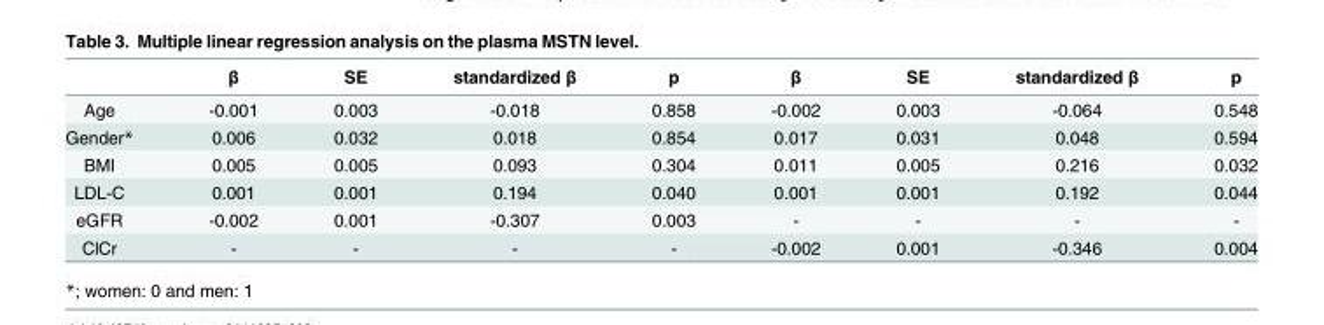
<table><thead><tr><td></td><td>β</td><td>SE</td><td>standardized β</td><td>p</td><td>β</td><td>SE</td><td>standardized β</td><td>p</td></tr></thead><tbody><tr><td>Age</td><td>-0.001</td><td>0.003</td><td>-0.018</td><td>0.858</td><td>-0.002</td><td>0.003</td><td>-0.064</td><td>0.548</td></tr><tr><td>Gender*</td><td>0.006</td><td>0.032</td><td>0.018</td><td>0.854</td><td>0.017</td><td>0.031</td><td>0.048</td><td>0.594</td></tr><tr><td>BMI</td><td>0.005</td><td>0.005</td><td>0.093</td><td>0.304</td><td>0.011</td><td>0.005</td><td>0.216</td><td>0.032</td></tr><tr><td>LDL-C</td><td>0.001</td><td>0.001</td><td>0.194</td><td>0.040</td><td>0.001</td><td>0.001</td><td>0.192</td><td>0.044</td></tr><tr><td>eGFR</td><td>-0.002</td><td>0.001</td><td>-0.307</td><td>0.003</td><td>-</td><td>-</td><td>-</td><td>-</td></tr><tr><td>ClCr</td><td>-</td><td>-</td><td>-</td><td>-</td><td>-0.002</td><td>0.001</td><td>-0.346</td><td>0.004</td></tr></tbody></table>